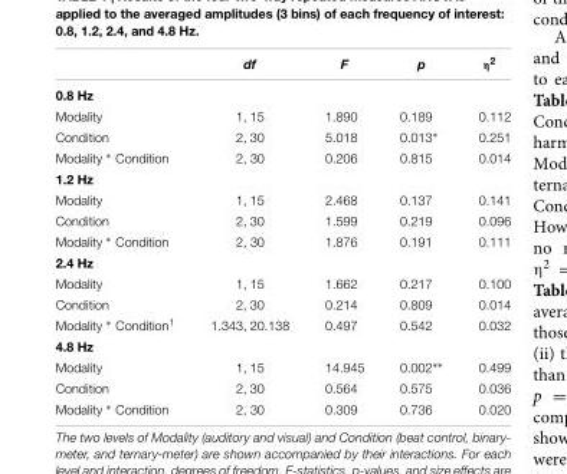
<table><thead><tr><td></td><td>df</td><td>F</td><td>p</td><td>η<sup>2</sup></td></tr></thead><tbody><tr><td colspan="5">0.8 Hz</td></tr><tr><td>Modality</td><td>1, 15</td><td>1.890</td><td>0.189</td><td>0.112</td></tr><tr><td>Condition</td><td>2, 30</td><td>5.018</td><td>0.013∗</td><td>0.251</td></tr><tr><td>Modality ∗ Condition</td><td>2, 30</td><td>0.206</td><td>0.815</td><td>0.014</td></tr><tr><td colspan="5">1.2 Hz</td></tr><tr><td>Modality</td><td>1, 15</td><td>2.468</td><td>0.137</td><td>0.141</td></tr><tr><td>Condition</td><td>2, 30</td><td>1.599</td><td>0.219</td><td>0.096</td></tr><tr><td>Modality ∗ Condition</td><td>2, 30</td><td>1.876</td><td>0.191</td><td>0.111</td></tr><tr><td colspan="5">2.4 Hz</td></tr><tr><td>Modality</td><td>1, 15</td><td>1.662</td><td>0.217</td><td>0.100</td></tr><tr><td>Condition</td><td>2, 30</td><td>0.214</td><td>0.809</td><td>0.014</td></tr><tr><td>Modality ∗ Condition<sup>1</sup></td><td>1.343, 20.138</td><td>0.497</td><td>0.542</td><td>0.032</td></tr><tr><td colspan="5">4.8 Hz</td></tr><tr><td>Modality</td><td>1, 15</td><td>14.945</td><td>0.002∗∗</td><td>0.499</td></tr><tr><td>Condition</td><td>2, 30</td><td>0.564</td><td>0.575</td><td>0.036</td></tr><tr><td>Modality ∗ Condition</td><td>2, 30</td><td>0.309</td><td>0.736</td><td>0.020</td></tr></tbody></table>